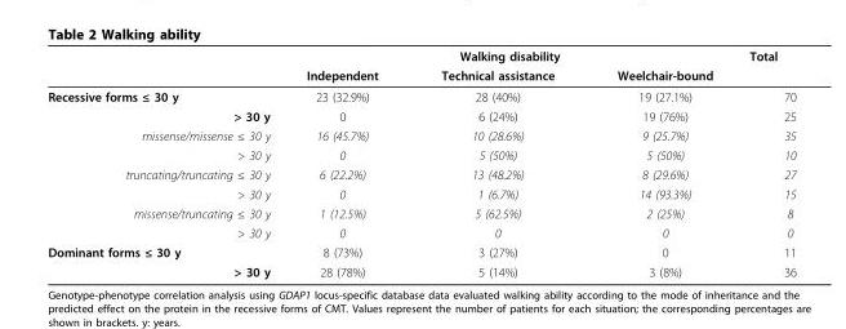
<table><thead><tr><td rowspan="2"></td><td colspan="3">Walking disability</td><td rowspan="2">Total</td></tr><tr><td>Independent</td><td>Technical assistance</td><td>Weelchair-bound</td></tr></thead><tbody><tr><td>Recessive forms ≤ 30 y</td><td>23 (32.9%)</td><td>28 (40%)</td><td>19 (27.1%)</td><td>70</td></tr><tr><td>&gt; 30 y</td><td>0</td><td>6 (24%)</td><td>19 (76%)</td><td>25</td></tr><tr><td>missense/missense ≤ 30 y</td><td>16 (45.7%)</td><td>10 (28.6%)</td><td>9 (25.7%)</td><td>35</td></tr><tr><td>&gt; 30 y</td><td>0</td><td>5 (50%)</td><td>5 (50%)</td><td>10</td></tr><tr><td>truncating/truncating ≤ 30 y</td><td>6 (22.2%)</td><td>13 (48.2%)</td><td>8 (29.6%)</td><td>27</td></tr><tr><td>&gt; 30 y</td><td>0</td><td>1 (6.7%)</td><td>14 (93.3%)</td><td>15</td></tr><tr><td>missense/truncating ≤ 30 y</td><td>1 (12.5%)</td><td>5 (62.5%)</td><td>2 (25%)</td><td>8</td></tr><tr><td>&gt; 30 y</td><td>0</td><td>0</td><td>0</td><td>0</td></tr><tr><td>Dominant forms ≤ 30 y</td><td>8 (73%)</td><td>3 (27%)</td><td>0</td><td>11</td></tr><tr><td>&gt; 30 y</td><td>28 (78%)</td><td>5 (14%)</td><td>3 (8%)</td><td>36</td></tr></tbody></table>